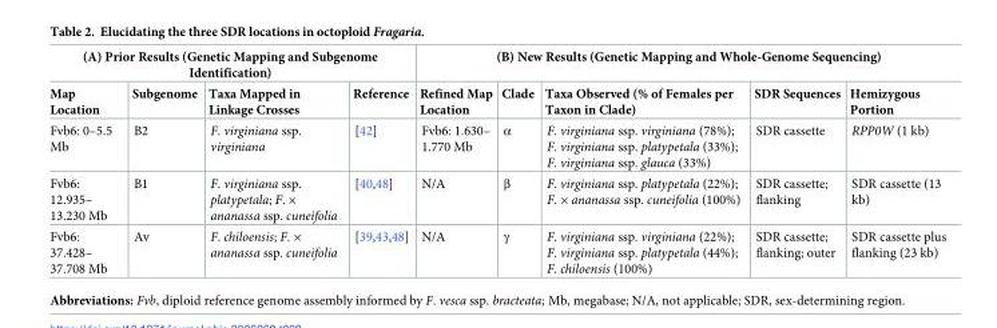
<table><thead><tr><td colspan="4">(A) Prior Results (Genetic Mapping and Subgenome Identification)</td><td colspan="5">(B) New Results (Genetic Mapping and Whole-Genome Sequencing)</td></tr><tr><td>Map Location</td><td>Subgenome</td><td>Taxa Mapped in Linkage Crosses</td><td>Reference</td><td>Refined Map Location</td><td>Clade</td><td>Taxa Observed (% of Females per Taxon in Clade)</td><td>SDR Sequences</td><td>Hemizygous Portion</td></tr></thead><tbody><tr><td>Fvb6: 0–5.5 Mb</td><td>B2</td><td>F. virginiana ssp. virginiana</td><td>[42]</td><td>Fvb6: 1.630– 1.770 Mb</td><td>α</td><td>F. virginiana ssp. virginiana (78%); F. virginiana ssp. platypetala (33%); F. virginiana ssp. glauca (33%)</td><td>SDR cassette</td><td>RPP0W (1 kb)</td></tr><tr><td>Fvb6: 12.935– 13.230 Mb</td><td>B1</td><td>F. virginiana ssp. platypetala; F. × ananassa ssp. cuneifolia</td><td>[40,48]</td><td>N/A</td><td>β</td><td>F. virginiana ssp. platypetala (22%); F. × ananassa ssp. cuneifolia (100%)</td><td>SDR cassette; flanking</td><td>SDR cassette (13 kb)</td></tr><tr><td>Fvb6: 37.428– 37.708 Mb</td><td>Av</td><td>F. chiloensis; F. × ananassa ssp. cuneifolia</td><td>[39,43,48]</td><td>N/A</td><td>γ</td><td>F. virginiana ssp. virginiana (22%); F. virginiana ssp. platypetala (44%); F. chiloensis (100%)</td><td>SDR cassette; flanking; outer</td><td>SDR cassette plus flanking (23 kb)</td></tr></tbody></table>